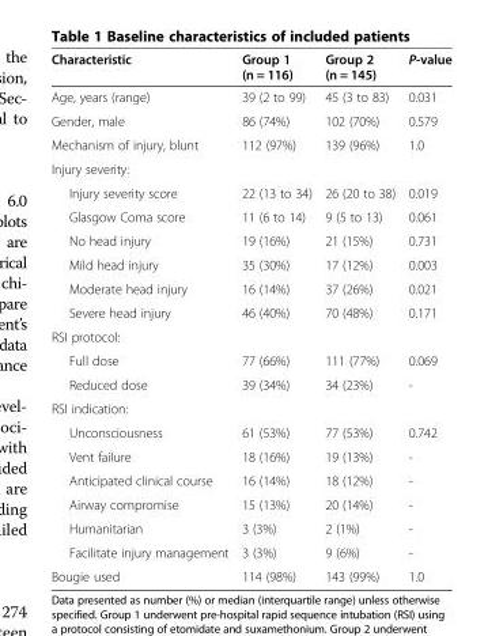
<table><thead><tr><td>Characteristic</td><td>Group 1 (n = 116)</td><td>Group 2 (n = 145)</td><td>P-value</td></tr></thead><tbody><tr><td>Age, years (range)</td><td>39 (2 to 99)</td><td>45 (3 to 83)</td><td>0.031</td></tr><tr><td>Gender, male</td><td>86 (74%)</td><td>102 (70%)</td><td>0.579</td></tr><tr><td>Mechanism of injury, blunt</td><td>112 (97%)</td><td>139 (96%)</td><td>1.0</td></tr><tr><td colspan="4">Injury severity:</td></tr><tr><td>Injury severity score</td><td>22 (13 to 34)</td><td>26 (20 to 38)</td><td>0.019</td></tr><tr><td>Glasgow Coma score</td><td>11 (6 to 14)</td><td>9 (5 to 13)</td><td>0.061</td></tr><tr><td>No head injury</td><td>19 (16%)</td><td>21 (15%)</td><td>0.731</td></tr><tr><td>Mild head injury</td><td>35 (30%)</td><td>17 (12%)</td><td>0.003</td></tr><tr><td>Moderate head injury</td><td>16 (14%)</td><td>37 (26%)</td><td>0.021</td></tr><tr><td>Severe head injury</td><td>46 (40%)</td><td>70 (48%)</td><td>0.171</td></tr><tr><td colspan="4">RSI protocol:</td></tr><tr><td>Full dose</td><td>77 (66%)</td><td>111 (77%)</td><td>0.069</td></tr><tr><td>Reduced dose</td><td>39 (34%)</td><td>34 (23%)</td><td>-</td></tr><tr><td colspan="4">RSI indication:</td></tr><tr><td>Unconsciousness</td><td>61 (53%)</td><td>77 (53%)</td><td>0.742</td></tr><tr><td>Vent failure</td><td>18 (16%)</td><td>19 (13%)</td><td>-</td></tr><tr><td>Anticipated clinical course</td><td>16 (14%)</td><td>18 (12%)</td><td>-</td></tr><tr><td>Airway compromise</td><td>15 (13%)</td><td>20 (14%)</td><td>-</td></tr><tr><td>Humanitarian</td><td>3 (3%)</td><td>2 (1%)</td><td>-</td></tr><tr><td>Facilitate injury management</td><td>3 (3%)</td><td>9 (6%)</td><td>-</td></tr><tr><td>Bougie used</td><td>114 (98%)</td><td>143 (99%)</td><td>1.0</td></tr></tbody></table>